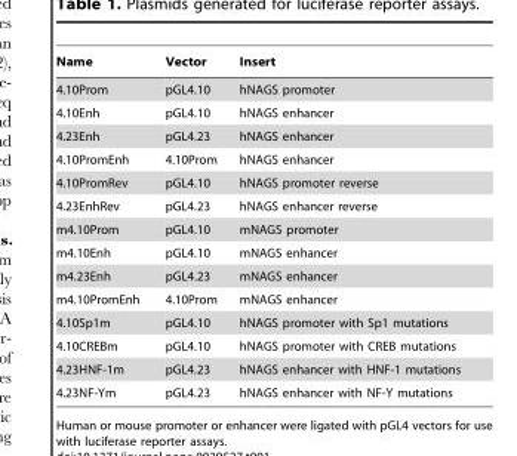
<table><thead><tr><td>Name</td><td>Vector</td><td>Insert</td></tr></thead><tbody><tr><td>4.10Prom</td><td>pGL4.10</td><td>hNAGS promoter</td></tr><tr><td>4.10Enh</td><td>pGL4.10</td><td>hNAGS enhancer</td></tr><tr><td>4.23Enh</td><td>pGL4.23</td><td>hNAGS enhancer</td></tr><tr><td>4.10PromEnh</td><td>4.10Prom</td><td>hNAGS enhancer</td></tr><tr><td>4.10PromRev</td><td>pGL4.10</td><td>hNAGS promoter reverse</td></tr><tr><td>4.23EnhRev</td><td>pGL4.23</td><td>hNAGS enhancer reverse</td></tr><tr><td>m4.10Prom</td><td>pGL4.10</td><td>mNAGS promoter</td></tr><tr><td>m4.10Enh</td><td>pGL4.10</td><td>mNAGS enhancer</td></tr><tr><td>m4.23Enh</td><td>pGL4.23</td><td>mNAGS enhancer</td></tr><tr><td>m4.10PromEnh</td><td>4.10Prom</td><td>mNAGS enhancer</td></tr><tr><td>4.10Sp1m</td><td>pGL4.10</td><td>hNAGS promoter with Sp1 mutations</td></tr><tr><td>4.10CREBm</td><td>pGL4.10</td><td>hNAGS promoter with CREB mutations</td></tr><tr><td>4.23HNF-1m</td><td>pGL4.23</td><td>hNAGS enhancer with HNF-1 mutations</td></tr><tr><td>4.23NF-Ym</td><td>pGL4.23</td><td>hNAGS enhancer with NF-Y mutations</td></tr></tbody></table>